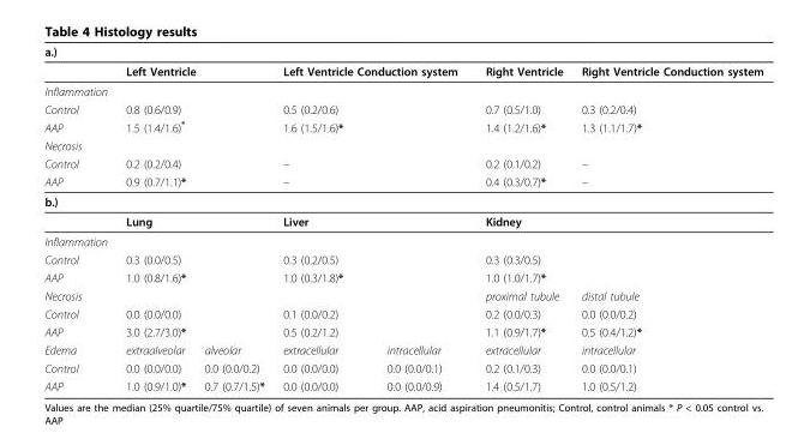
<table><thead><tr><td colspan="7">a.)</td></tr><tr><td rowspan="2">Inflammation</td><td colspan="2">Left Ventricle</td><td colspan="2">Left Ventricle Conduction system</td><td rowspan="2">Right Ventricle</td><td rowspan="2">Right Ventricle Conduction system</td></tr><tr><td></td><td></td><td></td><td></td></tr></thead><tbody><tr><td>Control</td><td colspan="2">0.8 (0.6/0.9)</td><td colspan="2">0.5 (0.2/0.6)</td><td>0.7 (0.5/1.0)</td><td>0.3 (0.2/0.4)</td></tr><tr><td>AAP</td><td colspan="2">1.5 (1.4/1.6)*</td><td colspan="2">1.6 (1.5/1.6)*</td><td>1.4 (1.2/1.6)*</td><td>1.3 (1.1/1.7)*</td></tr><tr><td colspan="7">Necrosis</td></tr><tr><td>Control</td><td colspan="2">0.2 (0.2/0.4)</td><td colspan="2">–</td><td>0.2 (0.1/0.2)</td><td>–</td></tr><tr><td>AAP</td><td colspan="2">0.9 (0.7/1.1)*</td><td colspan="2">–</td><td>0.4 (0.3/0.7)*</td><td>–</td></tr><tr><td colspan="7">b.)</td></tr><tr><td></td><td colspan="2">Lung</td><td colspan="2">Liver</td><td colspan="2">Kidney</td></tr><tr><td colspan="7">Inflammation</td></tr><tr><td>Control</td><td>0.3 (0.0/0.5)</td><td></td><td>0.3 (0.2/0.5)</td><td></td><td>0.3 (0.3/0.5)</td><td></td></tr><tr><td>AAP</td><td>1.0 (0.8/1.6)*</td><td></td><td>1.0 (0.3/1.8)*</td><td></td><td>1.0 (1.0/1.7)*</td><td></td></tr><tr><td>Necrosis</td><td></td><td></td><td></td><td></td><td>proximal tubule</td><td>distal tubule</td></tr><tr><td>Control</td><td>0.0 (0.0/0.0)</td><td></td><td>0.1 (0.0/0.2)</td><td></td><td>0.2 (0.0/0.3)</td><td>0.0 (0.0/0.2)</td></tr><tr><td>AAP</td><td>3.0 (2.7/3.0)*</td><td></td><td>0.5 (0.2/1.2)</td><td></td><td>1.1 (0.9/1.7)*</td><td>0.5 (0.4/1.2)*</td></tr><tr><td>Edema</td><td>extraalveolar</td><td>alveolar</td><td>extracellular</td><td>intracellular</td><td>extracellular</td><td>intracellular</td></tr><tr><td>Control</td><td>0.0 (0.0/0.0)</td><td>0.0 (0.0/0.2)</td><td>0.0 (0.0/0.0)</td><td>0.0 (0.0/0.1)</td><td>0.2 (0.1/0.3)</td><td>0.0 (0.0/0.1)</td></tr><tr><td>AAP</td><td>1.0 (0.9/1.0)*</td><td>0.7 (0.7/1.5)*</td><td>0.0 (0.0/0.0)</td><td>0.0 (0.0/0.9)</td><td>1.4 (0.5/1.7)</td><td>1.0 (0.5/1.2)</td></tr></tbody></table>